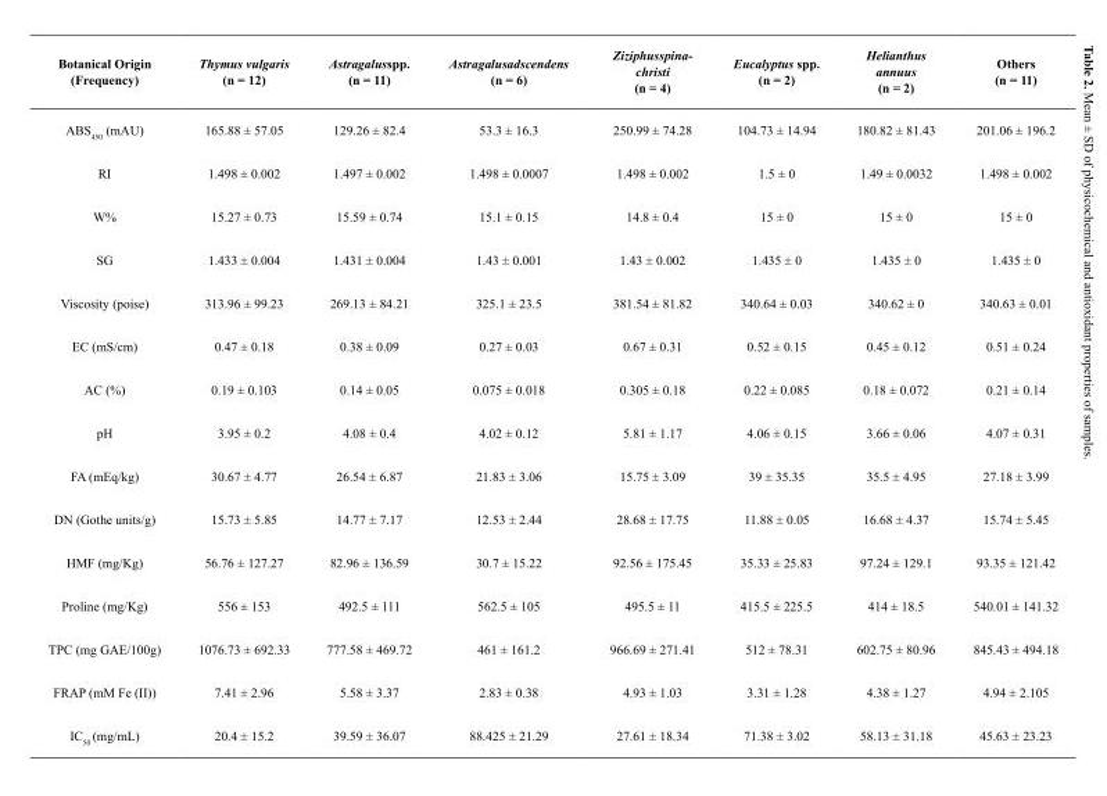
<table><thead><tr><td>Botanical Origin (Frequency)</td><td>Thymus vulgaris (n = 12)</td><td>Astragalusspp. (n = 11)</td><td>Astragalusadscendens (n = 6)</td><td>Ziziphusspina- christi (n = 4)</td><td>Eucalyptus spp. (n = 2)</td><td>Helianthus annuus (n = 2)</td><td>Others (n = 11)</td></tr></thead><tbody><tr><td>ABS<sub>450</sub> (mAU)</td><td>165.88 ± 57.05</td><td>129.26 ± 82.4</td><td>53.3 ± 16.3</td><td>250.99 ± 74.28</td><td>104.73 ± 14.94</td><td>180.82 ± 81.43</td><td>201.06 ± 196.2</td></tr><tr><td>RI</td><td>1.498 ± 0.002</td><td>1.497 ± 0.002</td><td>1.498 ± 0.0007</td><td>1.498 ± 0.002</td><td>1.5 ± 0</td><td>1.49 ± 0.0032</td><td>1.498 ± 0.002</td></tr><tr><td>W%</td><td>15.27 ± 0.73</td><td>15.59 ± 0.74</td><td>15.1 ± 0.15</td><td>14.8 ± 0.4</td><td>15 ± 0</td><td>15 ± 0</td><td>15 ± 0</td></tr><tr><td>SG</td><td>1.433 ± 0.004</td><td>1.431 ± 0.004</td><td>1.43 ± 0.001</td><td>1.43 ± 0.002</td><td>1.435 ± 0</td><td>1.435 ± 0</td><td>1.435 ± 0</td></tr><tr><td>Viscosity (poise)</td><td>313.96 ± 99.23</td><td>269.13 ± 84.21</td><td>325.1 ± 23.5</td><td>381.54 ± 81.82</td><td>340.64 ± 0.03</td><td>340.62 ± 0</td><td>340.63 ± 0.01</td></tr><tr><td>EC (mS/cm)</td><td>0.47 ± 0.18</td><td>0.38 ± 0.09</td><td>0.27 ± 0.03</td><td>0.67 ± 0.31</td><td>0.52 ± 0.15</td><td>0.45 ± 0.12</td><td>0.51 ± 0.24</td></tr><tr><td>AC (%)</td><td>0.19 ± 0.103</td><td>0.14 ± 0.05</td><td>0.075 ± 0.018</td><td>0.305 ± 0.18</td><td>0.22 ± 0.085</td><td>0.18 ± 0.072</td><td>0.21 ± 0.14</td></tr><tr><td>pH</td><td>3.95 ± 0.2</td><td>4.08 ± 0.4</td><td>4.02 ± 0.12</td><td>5.81 ± 1.17</td><td>4.06 ± 0.15</td><td>3.66 ± 0.06</td><td>4.07 ± 0.31</td></tr><tr><td>FA (mEq/kg)</td><td>30.67 ± 4.77</td><td>26.54 ± 6.87</td><td>21.83 ± 3.06</td><td>15.75 ± 3.09</td><td>39 ± 35.35</td><td>35.5 ± 4.95</td><td>27.18 ± 3.99</td></tr><tr><td>DN (Gothe units/g)</td><td>15.73 ± 5.85</td><td>14.77 ± 7.17</td><td>12.53 ± 2.44</td><td>28.68 ± 17.75</td><td>11.88 ± 0.05</td><td>16.68 ± 4.37</td><td>15.74 ± 5.45</td></tr><tr><td>HMF (mg/Kg)</td><td>56.76 ± 127.27</td><td>82.96 ± 136.59</td><td>30.7 ± 15.22</td><td>92.56 ± 175.45</td><td>35.33 ± 25.83</td><td>97.24 ± 129.1</td><td>93.35 ± 121.42</td></tr><tr><td>Proline (mg/Kg)</td><td>556 ± 153</td><td>492.5 ± 111</td><td>562.5 ± 105</td><td>495.5 ± 11</td><td>415.5 ± 225.5</td><td>414 ± 18.5</td><td>540.01 ± 141.32</td></tr><tr><td>TPC (mg GAE/100g)</td><td>1076.73 ± 692.33</td><td>777.58 ± 469.72</td><td>461 ± 161.2</td><td>966.69 ± 271.41</td><td>512 ± 78.31</td><td>602.75 ± 80.96</td><td>845.43 ± 494.18</td></tr><tr><td>FRAP (mM Fe (II))</td><td>7.41 ± 2.96</td><td>5.58 ± 3.37</td><td>2.83 ± 0.38</td><td>4.93 ± 1.03</td><td>3.31 ± 1.28</td><td>4.38 ± 1.27</td><td>4.94 ± 2.105</td></tr><tr><td>IC<sub>50</sub> (mg/mL)</td><td>20.4 ± 15.2</td><td>39.59 ± 36.07</td><td>88.425 ± 21.29</td><td>27.61 ± 18.34</td><td>71.38 ± 3.02</td><td>58.13 ± 31.18</td><td>45.63 ± 23.23</td></tr></tbody></table>